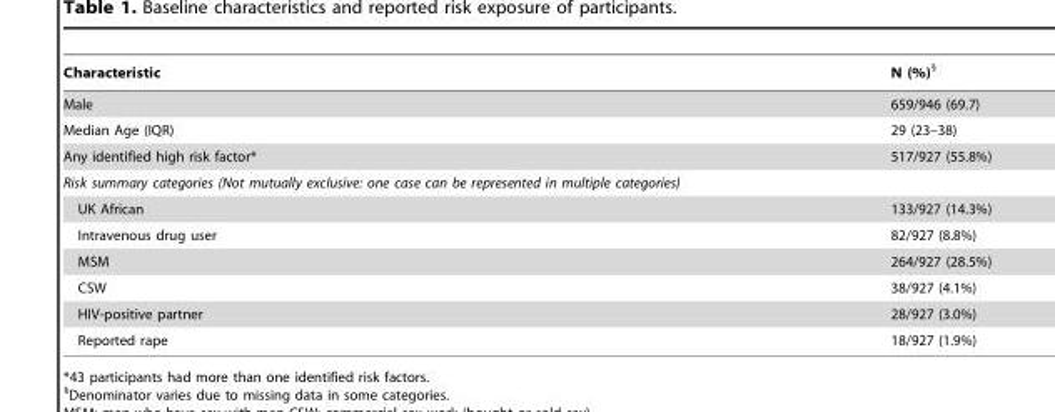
<table><thead><tr><td>Characteristic</td><td>N (%)§</td></tr></thead><tbody><tr><td>Male</td><td>659/946 (69.7)</td></tr><tr><td>Median Age (IQR)</td><td>29 (23–38)</td></tr><tr><td>Any identified high risk factor*</td><td>517/927 (55.8%)</td></tr><tr><td colspan="2">Risk summary categories (Not mutually exclusive: one case can be represented in multiple categories)</td></tr><tr><td>UK African</td><td>133/927 (14.3%)</td></tr><tr><td>Intravenous drug user</td><td>82/927 (8.8%)</td></tr><tr><td>MSM</td><td>264/927 (28.5%)</td></tr><tr><td>CSW</td><td>38/927 (4.1%)</td></tr><tr><td>HIV-positive partner</td><td>28/927 (3.0%)</td></tr><tr><td>Reported rape</td><td>18/927 (1.9%)</td></tr></tbody></table>